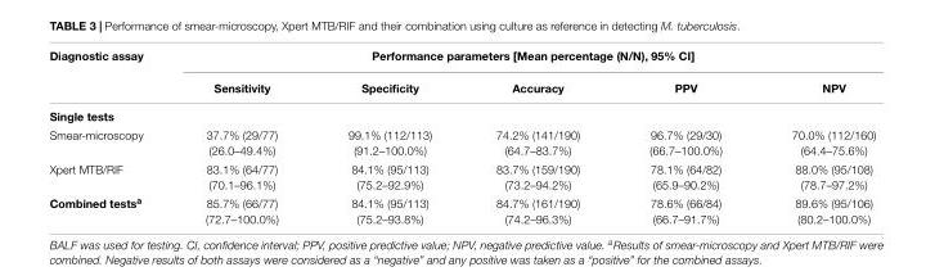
<table><thead><tr><td rowspan="2">Diagnostic assay</td><td colspan="5">Performance parameters [Mean percentage (N/N), 95% CI]</td></tr><tr><td>Sensitivity</td><td>Specificity</td><td>Accuracy</td><td>PPV</td><td>NPV</td></tr></thead><tbody><tr><td colspan="6">Single tests</td></tr><tr><td>Smear-microscopy</td><td>37.7% (29/77) (26.0–49.4%)</td><td>99.1% (112/113) (91.2–100.0%)</td><td>74.2% (141/190) (64.7–83.7%)</td><td>96.7% (29/30) (66.7–100.0%)</td><td>70.0% (112/160) (64.4–75.6%)</td></tr><tr><td>Xpert MTB/RIF</td><td>83.1% (64/77) (70.1–96.1%)</td><td>84.1% (95/113) (75.2–92.9%)</td><td>83.7% (159/190) (73.2–94.2%)</td><td>78.1% (64/82) (65.9–90.2%)</td><td>88.0% (95/108) (78.7–97.2%)</td></tr><tr><td>Combined tests<sup>a</sup></td><td>85.7% (66/77) (72.7–100.0%)</td><td>84.1% (95/113) (75.2–93.8%)</td><td>84.7% (161/190) (74.2–96.3%)</td><td>78.6% (66/84) (66.7–91.7%)</td><td>89.6% (95/106) (80.2–100.0%)</td></tr></tbody></table>